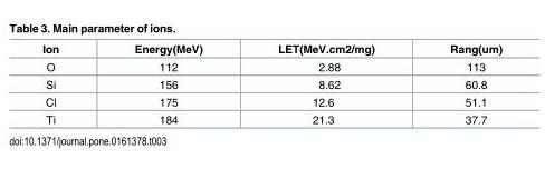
<table><thead><tr><td>Ion</td><td>Energy(MeV)</td><td>LET(MeV.cm2/mg)</td><td>Rang(um)</td></tr></thead><tbody><tr><td>O</td><td>112</td><td>2.88</td><td>113</td></tr><tr><td>Si</td><td>156</td><td>8.62</td><td>60.8</td></tr><tr><td>Cl</td><td>175</td><td>12.6</td><td>51.1</td></tr><tr><td>Ti</td><td>184</td><td>21.3</td><td>37.7</td></tr></tbody></table>